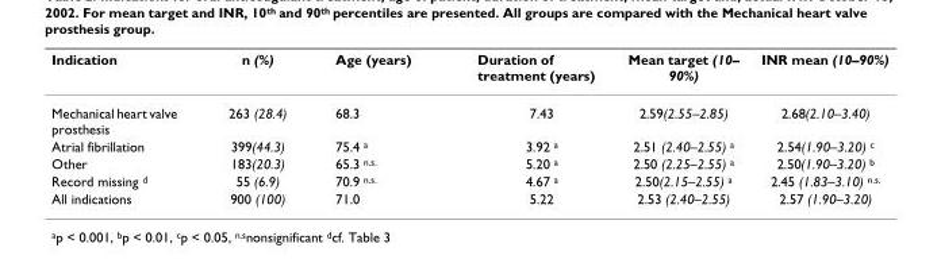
<table><thead><tr><td>Indication</td><td>n (%)</td><td>Age (years)</td><td>Duration of treatment (years)</td><td>Mean target (10– 90%)</td><td>INR mean (10–90%)</td></tr></thead><tbody><tr><td>Mechanical heart valve prosthesis</td><td>263 (28.4)</td><td>68.3</td><td>7.43</td><td>2.59(2.55–2.85)</td><td>2.68(2.10–3.40)</td></tr><tr><td>Atrial fibrillation</td><td>399(44.3)</td><td>75.4 <sup>a</sup></td><td>3.92 <sup>a</sup></td><td>2.51 (2.40–2.55) <sup>a</sup></td><td>2.54(1.90–3.20) <sup>c</sup></td></tr><tr><td>Other</td><td>183(20.3)</td><td>65.3 <sup>n.s.</sup></td><td>5.20 <sup>a</sup></td><td>2.50 (2.25–2.55) <sup>a</sup></td><td>2.50(1.90–3.20) <sup>b</sup></td></tr><tr><td>Record missing <sup>d</sup></td><td>55 (6.9)</td><td>70.9 <sup>n.s.</sup></td><td>4.67 <sup>a</sup></td><td>2.50(2.15–2.55) <sup>a</sup></td><td>2.45 (1.83–3.10) <sup>n.s.</sup></td></tr><tr><td>All indications</td><td>900 (100)</td><td>71.0</td><td>5.22</td><td>2.53 (2.40–2.55)</td><td>2.57 (1.90–3.20)</td></tr></tbody></table>